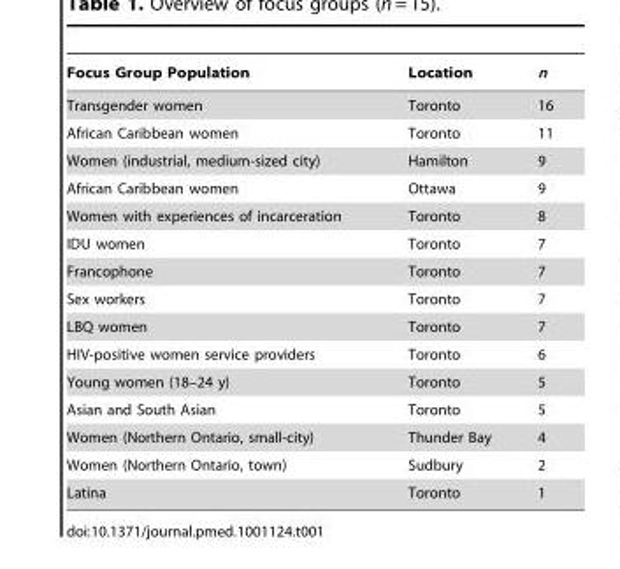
<table><thead><tr><td>Focus Group Population</td><td>Location</td><td>n</td></tr></thead><tbody><tr><td>Transgender women</td><td>Toronto</td><td>16</td></tr><tr><td>African Caribbean women</td><td>Toronto</td><td>11</td></tr><tr><td>Women (industrial, medium-sized city)</td><td>Hamilton</td><td>9</td></tr><tr><td>African Caribbean women</td><td>Ottawa</td><td>9</td></tr><tr><td>Women with experiences of incarceration</td><td>Toronto</td><td>8</td></tr><tr><td>IDU women</td><td>Toronto</td><td>7</td></tr><tr><td>Francophone</td><td>Toronto</td><td>7</td></tr><tr><td>Sex workers</td><td>Toronto</td><td>7</td></tr><tr><td>LBQ women</td><td>Toronto</td><td>7</td></tr><tr><td>HIV-positive women service providers</td><td>Toronto</td><td>6</td></tr><tr><td>Young women (18–24 y)</td><td>Toronto</td><td>5</td></tr><tr><td>Asian and South Asian</td><td>Toronto</td><td>5</td></tr><tr><td>Women (Northern Ontario, small-city)</td><td>Thunder Bay</td><td>4</td></tr><tr><td>Women (Northern Ontario, town)</td><td>Sudbury</td><td>2</td></tr><tr><td>Latina</td><td>Toronto</td><td>1</td></tr></tbody></table>